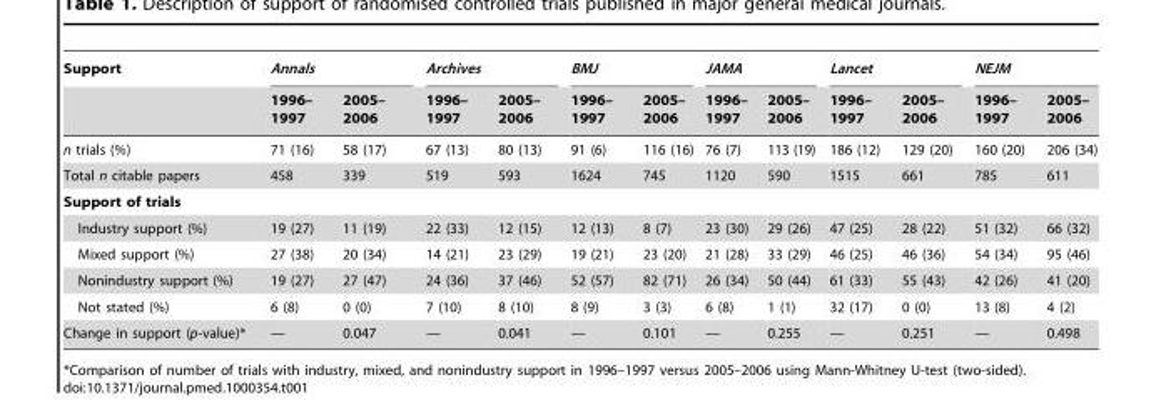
<table><thead><tr><td rowspan="2">Support</td><td colspan="2">Annals</td><td colspan="2">Archives</td><td colspan="2">BMJ</td><td colspan="2">JAMA</td><td colspan="2">Lancet</td><td colspan="2">NEJM</td></tr><tr><td>1996– 1997</td><td>2005– 2006</td><td>1996– 1997</td><td>2005– 2006</td><td>1996– 1997</td><td>2005– 2006</td><td>1996– 1997</td><td>2005– 2006</td><td>1996– 1997</td><td>2005– 2006</td><td>1996– 1997</td><td>2005– 2006</td></tr></thead><tbody><tr><td>n trials (%)</td><td>71 (16)</td><td>58 (17)</td><td>67 (13)</td><td>80 (13)</td><td>91 (6)</td><td>116 (16)</td><td>76 (7)</td><td>113 (19)</td><td>186 (12)</td><td>129 (20)</td><td>160 (20)</td><td>206 (34)</td></tr><tr><td>Total n citable papers</td><td>458</td><td>339</td><td>519</td><td>593</td><td>1624</td><td>745</td><td>1120</td><td>590</td><td>1515</td><td>661</td><td>785</td><td>611</td></tr><tr><td colspan="13">Support of trials</td></tr><tr><td>Industry support (%)</td><td>19 (27)</td><td>11 (19)</td><td>22 (33)</td><td>12 (15)</td><td>12 (13)</td><td>8 (7)</td><td>23 (30)</td><td>29 (26)</td><td>47 (25)</td><td>28 (22)</td><td>51 (32)</td><td>66 (32)</td></tr><tr><td>Mixed support (%)</td><td>27 (38)</td><td>20 (34)</td><td>14 (21)</td><td>23 (29)</td><td>19 (21)</td><td>23 (20)</td><td>21 (28)</td><td>33 (29)</td><td>46 (25)</td><td>46 (36)</td><td>54 (34)</td><td>95 (46)</td></tr><tr><td>Nonindustry support (%)</td><td>19 (27)</td><td>27 (47)</td><td>24 (36)</td><td>37 (46)</td><td>52 (57)</td><td>82 (71)</td><td>26 (34)</td><td>50 (44)</td><td>61 (33)</td><td>55 (43)</td><td>42 (26)</td><td>41 (20)</td></tr><tr><td>Not stated (%)</td><td>6 (8)</td><td>0 (0)</td><td>7 (10)</td><td>8 (10)</td><td>8 (9)</td><td>3 (3)</td><td>6 (8)</td><td>1 (1)</td><td>32 (17)</td><td>0 (0)</td><td>13 (8)</td><td>4 (2)</td></tr><tr><td>Change in support (p-value)*</td><td>—</td><td>0.047</td><td>—</td><td>0.041</td><td>—</td><td>0.101</td><td>—</td><td>0.255</td><td>—</td><td>0.251</td><td>—</td><td>0.498</td></tr></tbody></table>